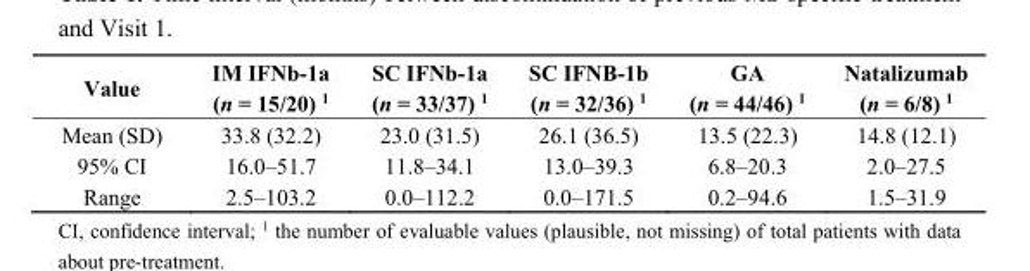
<table><thead><tr><td>Value</td><td>IM IFNb-1a (n = 15/20) <sup>1</sup></td><td>SC IFNb-1a (n = 33/37) <sup>1</sup></td><td>SC IFNB-1b (n = 32/36) <sup>1</sup></td><td>GA (n = 44/46) <sup>1</sup></td><td>Natalizumab (n = 6/8) <sup>1</sup></td></tr></thead><tbody><tr><td>Mean (SD)</td><td>33.8 (32.2)</td><td>23.0 (31.5)</td><td>26.1 (36.5)</td><td>13.5 (22.3)</td><td>14.8 (12.1)</td></tr><tr><td>95% CI</td><td>16.0–51.7</td><td>11.8–34.1</td><td>13.0–39.3</td><td>6.8–20.3</td><td>2.0–27.5</td></tr><tr><td>Range</td><td>2.5–103.2</td><td>0.0–112.2</td><td>0.0–171.5</td><td>0.2–94.6</td><td>1.5–31.9</td></tr></tbody></table>